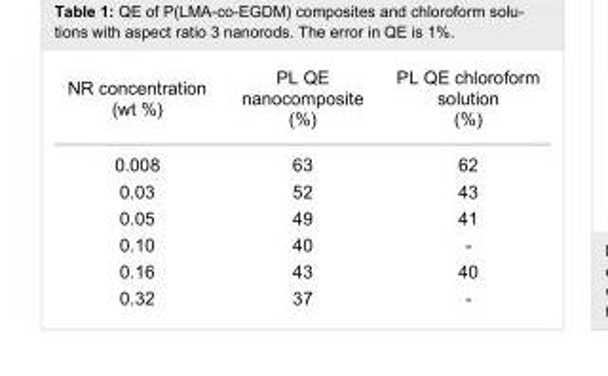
<table><tbody><tr><td>NR concentration (wt %)</td><td>PL QE nanocomposite (%)</td><td>PL QE chloroform solution (%)</td></tr><tr><td>0.008</td><td>63</td><td>62</td></tr><tr><td>0.03</td><td>52</td><td>43</td></tr><tr><td>0.05</td><td>49</td><td>41</td></tr><tr><td>0.10</td><td>40</td><td>-</td></tr><tr><td>0.16</td><td>43</td><td>40</td></tr><tr><td>0.32</td><td>37</td><td>-</td></tr></tbody></table>